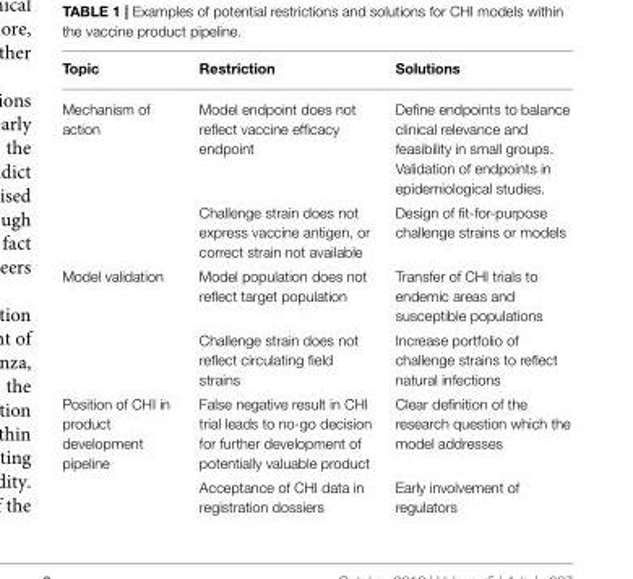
<table><thead><tr><td>Topic</td><td>Restriction</td><td>Solutions</td></tr></thead><tbody><tr><td rowspan="2">Mechanism of action</td><td>Model endpoint does not reflect vaccine efficacy endpoint</td><td>Define endpoints to balance clinical relevance and feasibility in small groups. Validation of endpoints in epidemiological studies.</td></tr><tr><td>Challenge strain does not express vaccine antigen, or correct strain not available</td><td>Design of fit-for-purpose challenge strains or models</td></tr><tr><td rowspan="2">Model validation</td><td>Model population does not reflect target population</td><td>Transfer of CHI trials to endemic areas and susceptible populations</td></tr><tr><td>Challenge strain does not reflect circulating field strains</td><td>Increase portfolio of challenge strains to reflect natural infections</td></tr><tr><td rowspan="2">Position of CHI in product development pipeline</td><td>False negative result in CHI trial leads to no-go decision for further development of potentially valuable product</td><td>Clear definition of the research question which the model addresses</td></tr><tr><td>Acceptance of CHI data in registration dossiers</td><td>Early involvement of regulators</td></tr></tbody></table>